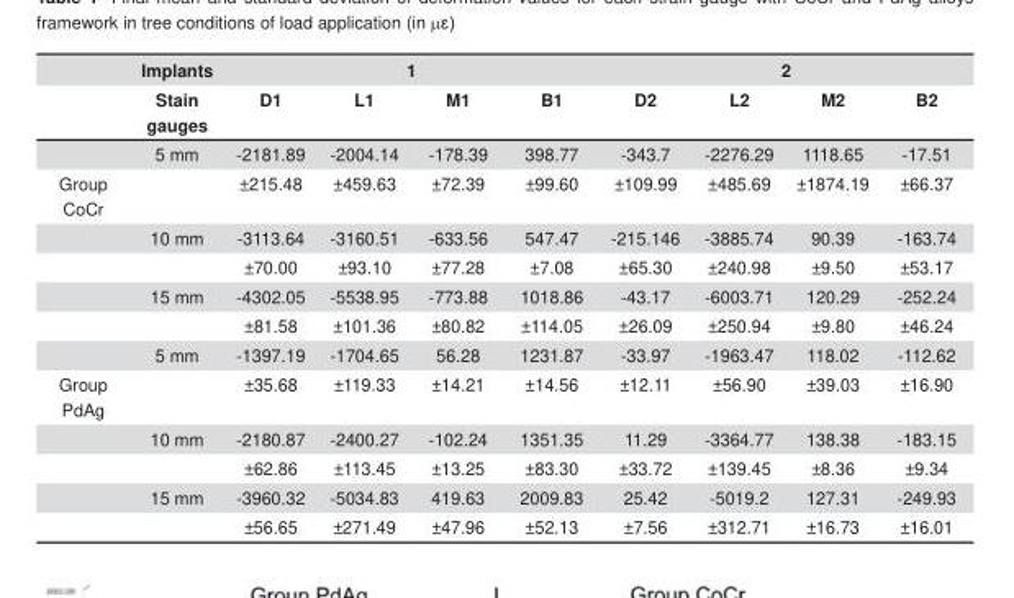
<table><thead><tr><td rowspan="2"></td><td rowspan="2">Implants Stain gauges</td><td colspan="4">1</td><td colspan="4">2</td></tr><tr><td>D1</td><td>L1</td><td>M1</td><td>B1</td><td>D2</td><td>L2</td><td>M2</td><td>B2</td></tr></thead><tbody><tr><td></td><td>5 mm</td><td>-2181.89</td><td>-2004.14</td><td>-178.39</td><td>398.77</td><td>-343.7</td><td>-2276.29</td><td>1118.65</td><td>-17.51</td></tr><tr><td rowspan="6">Group CoCr</td><td></td><td>±215.48</td><td>±459.63</td><td>±72.39</td><td>±99.60</td><td>±109.99</td><td>±485.69</td><td>±1874.19</td><td>±66.37</td></tr><tr><td>10 mm</td><td>-3113.64</td><td>-3160.51</td><td>-633.56</td><td>547.47</td><td>-215.146</td><td>-3885.74</td><td>90.39</td><td>-163.74</td></tr><tr><td></td><td>±70.00</td><td>±93.10</td><td>±77.28</td><td>±7.08</td><td>±65.30</td><td>±240.98</td><td>±9.50</td><td>±53.17</td></tr><tr><td>15 mm</td><td>-4302.05</td><td>-5538.95</td><td>-773.88</td><td>1018.86</td><td>-43.17</td><td>-6003.71</td><td>120.29</td><td>-252.24</td></tr><tr><td></td><td>±81.58</td><td>±101.36</td><td>±80.82</td><td>±114.05</td><td>±26.09</td><td>±250.94</td><td>±9.80</td><td>±46.24</td></tr><tr><td>5 mm</td><td>-1397.19</td><td>-1704.65</td><td>56.28</td><td>1231.87</td><td>-33.97</td><td>-1963.47</td><td>118.02</td><td>-112.62</td></tr><tr><td rowspan="5">Group PdAg</td><td></td><td>±35.68</td><td>±119.33</td><td>±14.21</td><td>±14.56</td><td>±12.11</td><td>±56.90</td><td>±39.03</td><td>±16.90</td></tr><tr><td>10 mm</td><td>-2180.87</td><td>-2400.27</td><td>-102.24</td><td>1351.35</td><td>11.29</td><td>-3364.77</td><td>138.38</td><td>-183.15</td></tr><tr><td></td><td>±62.86</td><td>±113.45</td><td>±13.25</td><td>±83.30</td><td>±33.72</td><td>±139.45</td><td>±8.36</td><td>±9.34</td></tr><tr><td>15 mm</td><td>-3960.32</td><td>-5034.83</td><td>419.63</td><td>2009.83</td><td>25.42</td><td>-5019.2</td><td>127.31</td><td>-249.93</td></tr><tr><td></td><td>±56.65</td><td>±271.49</td><td>±47.96</td><td>±52.13</td><td>±7.56</td><td>±312.71</td><td>±16.73</td><td>±16.01</td></tr></tbody></table>